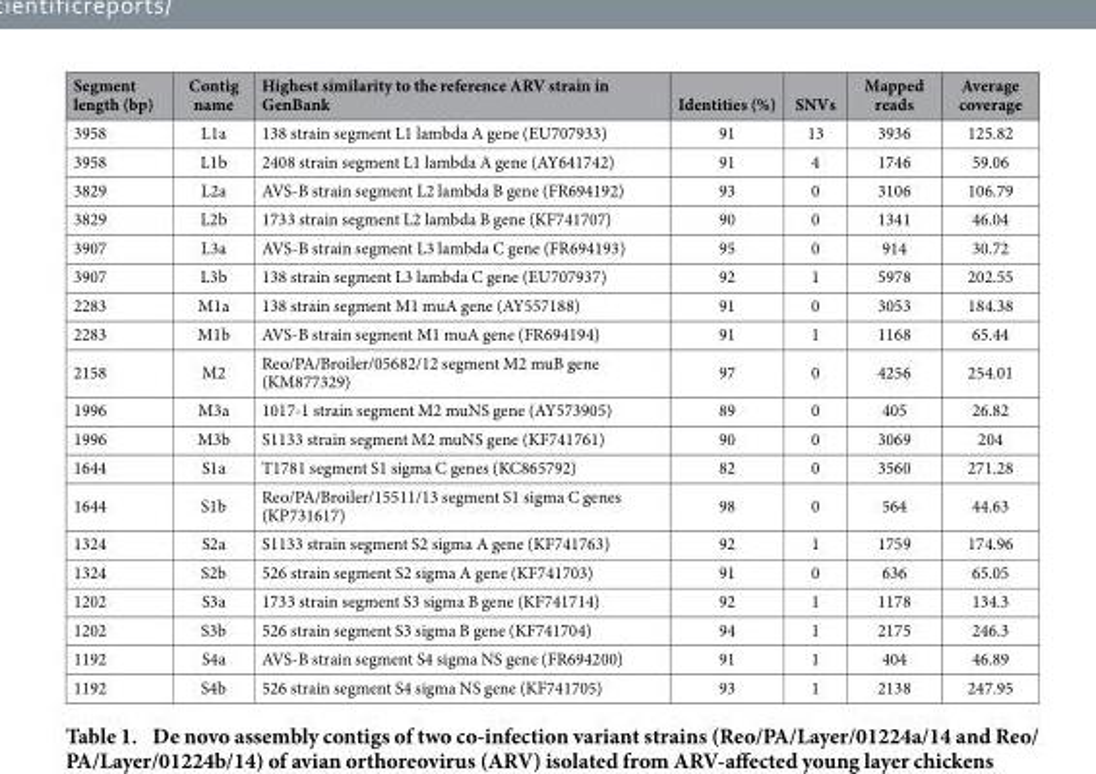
<table><thead><tr><td>Segment length (bp)</td><td>Contig name</td><td>Highest similarity to the reference ARV strain in GenBank</td><td>Identities (%)</td><td>SNVs</td><td>Mapped reads</td><td>Average coverage</td></tr></thead><tbody><tr><td>3958</td><td>L1a</td><td>138 strain segment L1 lambda A gene (EU707933)</td><td>91</td><td>13</td><td>3936</td><td>125.82</td></tr><tr><td>3958</td><td>L1b</td><td>2408 strain segment L1 lambda A gene (AY641742)</td><td>91</td><td>4</td><td>1746</td><td>59.06</td></tr><tr><td>3829</td><td>L2a</td><td>AVS-B strain segment L2 lambda B gene (FR694192)</td><td>93</td><td>0</td><td>3106</td><td>106.79</td></tr><tr><td>3829</td><td>L2b</td><td>1733 strain segment L2 lambda B gene (KF741707)</td><td>90</td><td>0</td><td>1341</td><td>46.04</td></tr><tr><td>3907</td><td>L3a</td><td>AVS-B strain segment L3 lambda C gene (FR694193)</td><td>95</td><td>0</td><td>914</td><td>30.72</td></tr><tr><td>3907</td><td>L3b</td><td>138 strain segment L3 lambda C gene (EU707937)</td><td>92</td><td>1</td><td>5978</td><td>202.55</td></tr><tr><td>2283</td><td>M1a</td><td>138 strain segment M1 muA gene (AY557188)</td><td>91</td><td>0</td><td>3053</td><td>184.38</td></tr><tr><td>2283</td><td>M1b</td><td>AVS-B strain segment M1 muA gene (FR694194)</td><td>91</td><td>1</td><td>1168</td><td>65.44</td></tr><tr><td>2158</td><td>M2</td><td>Reo/PA/Broiler/05682/12 segment M2 muB gene (KM877329)</td><td>97</td><td>0</td><td>4256</td><td>254.01</td></tr><tr><td>1996</td><td>M3a</td><td>1017-1 strain segment M2 muNS gene (AY573905)</td><td>89</td><td>0</td><td>405</td><td>26.82</td></tr><tr><td>1996</td><td>M3b</td><td>S1133 strain segment M2 muNS gene (KF741761)</td><td>90</td><td>0</td><td>3069</td><td>204</td></tr><tr><td>1644</td><td>S1a</td><td>T1781 segment S1 sigma C genes (KC865792)</td><td>82</td><td>0</td><td>3560</td><td>271.28</td></tr><tr><td>1644</td><td>S1b</td><td>Reo/PA/Broiler/15511/13 segment S1 sigma C genes (KP731617)</td><td>98</td><td>0</td><td>564</td><td>44.63</td></tr><tr><td>1324</td><td>S2a</td><td>S1133 strain segment S2 sigma A gene (KF741763)</td><td>92</td><td>1</td><td>1759</td><td>174.96</td></tr><tr><td>1324</td><td>S2b</td><td>526 strain segment S2 sigma A gene (KF741703)</td><td>91</td><td>0</td><td>636</td><td>65.05</td></tr><tr><td>1202</td><td>S3a</td><td>1733 strain segment S3 sigma B gene (KF741714)</td><td>92</td><td>1</td><td>1178</td><td>134.3</td></tr><tr><td>1202</td><td>S3b</td><td>526 strain segment S3 sigma B gene (KF741704)</td><td>94</td><td>1</td><td>2175</td><td>246.3</td></tr><tr><td>1192</td><td>S4a</td><td>AVS-B strain segment S4 sigma NS gene (FR694200)</td><td>91</td><td>1</td><td>404</td><td>46.89</td></tr><tr><td>1192</td><td>S4b</td><td>526 strain segment S4 sigma NS gene (KF741705)</td><td>93</td><td>1</td><td>2138</td><td>247.95</td></tr></tbody></table>